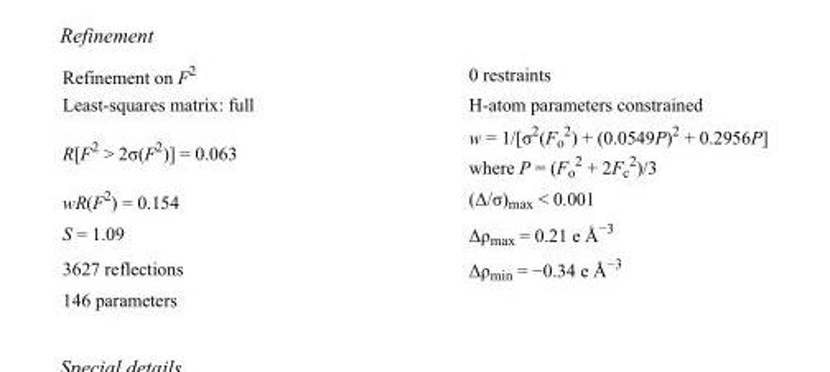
<table><tbody><tr><td>Refinement on F<sup>2</sup></td><td>0 restraints</td></tr><tr><td>Least-squares matrix: full</td><td>H-atom parameters constrained</td></tr><tr><td>R[F<sup>2</sup> &gt; 2σ(F<sup>2</sup>)] = 0.063</td><td>w = 1/[σ<sup>2</sup>(F<sub>o</sub> <sup>2</sup>) + (0.0549P)<sup>2</sup> + 0.2956P] where P = (F<sub>o</sub> <sup>2</sup> + 2F<sub>c</sub> <sup>2</sup>)/3</td></tr><tr><td>wR(F<sup>2</sup>) = 0.154</td><td>(Δ/σ)<sub>max</sub> &lt; 0.001</td></tr><tr><td>S = 1.09</td><td>Δρ<sub>max</sub> = 0.21 e Å<sup>−3</sup></td></tr><tr><td>3627 reflections</td><td>Δρ<sub>min</sub> = −0.34 e Å<sup>−3</sup></td></tr><tr><td>146 parameters</td><td></td></tr></tbody></table>